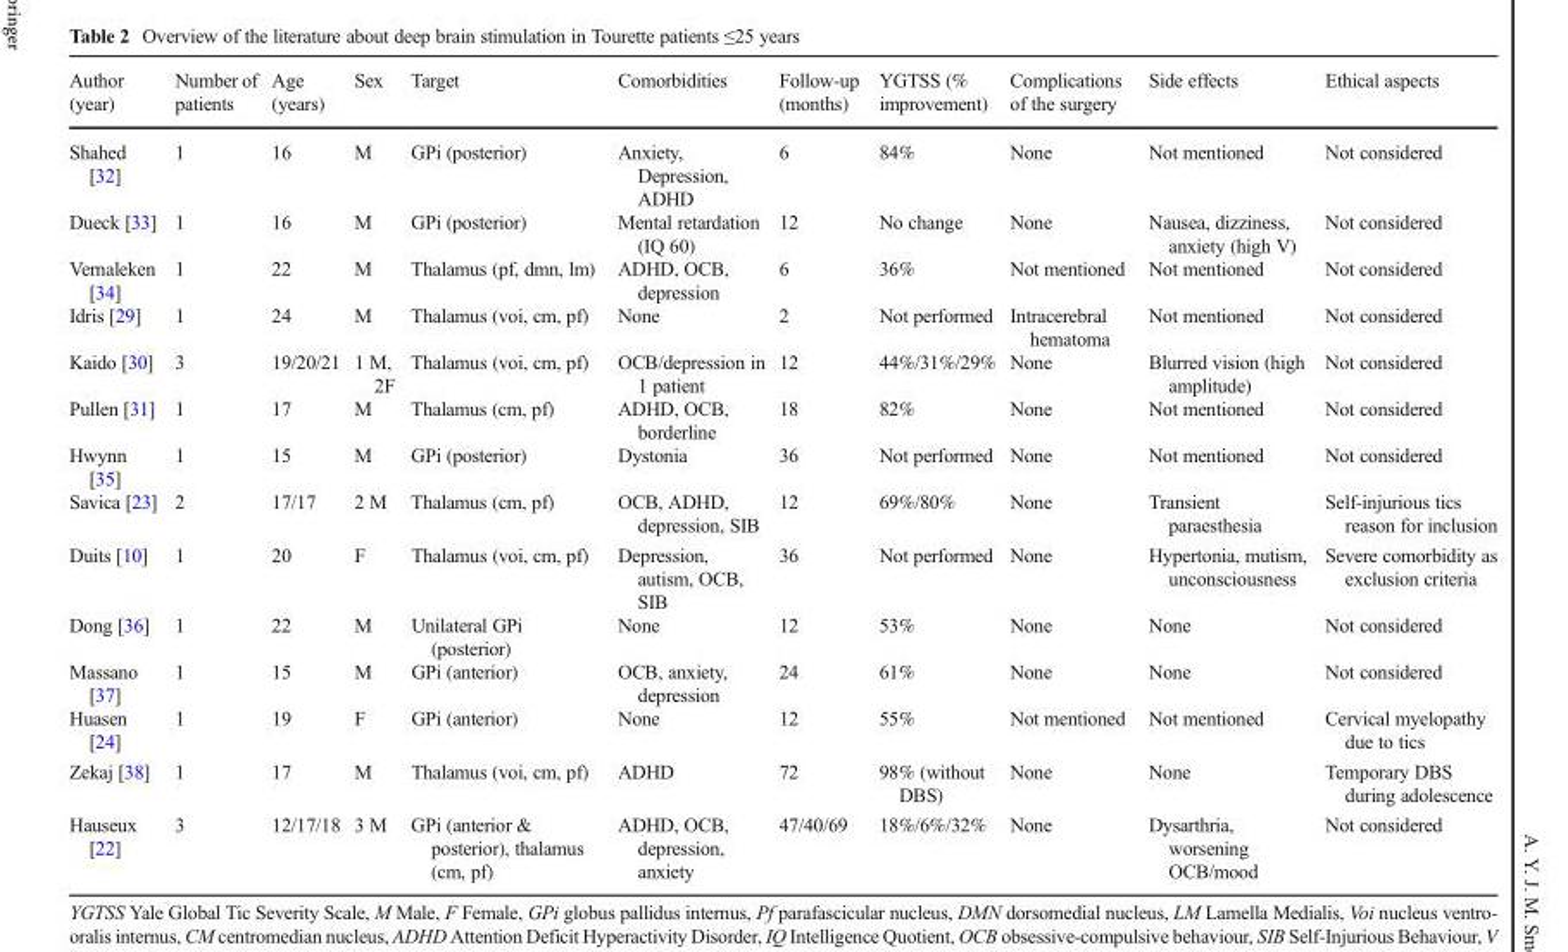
<table><thead><tr><td>Author (year)</td><td>Number of patients</td><td>Age (years)</td><td>Sex</td><td>Target</td><td>Comorbidities</td><td>Follow-up (months)</td><td>YGTSS (% improvement)</td><td>Complications of the surgery</td><td>Side effects</td><td>Ethical aspects</td></tr></thead><tbody><tr><td>Shahed [32]</td><td>1</td><td>16</td><td>M</td><td>GPi (posterior)</td><td>Anxiety, Depression, ADHD</td><td>6</td><td>84%</td><td>None</td><td>Not mentioned</td><td>Not considered</td></tr><tr><td>Dueck [33]</td><td>1</td><td>16</td><td>M</td><td>GPi (posterior)</td><td>Mental retardation (IQ 60)</td><td>12</td><td>No change</td><td>None</td><td>Nausea, dizziness, anxiety (high V)</td><td>Not considered</td></tr><tr><td>Vernaleken [34]</td><td>1</td><td>22</td><td>M</td><td>Thalamus (pf, dmn, lm)</td><td>ADHD, OCB, depression</td><td>6</td><td>36%</td><td>Not mentioned</td><td>Not mentioned</td><td>Not considered</td></tr><tr><td>Idris [29]</td><td>1</td><td>24</td><td>M</td><td>Thalamus (voi, cm, pf)</td><td>None</td><td>2</td><td>Not performed</td><td>Intracerebral hematoma</td><td>Not mentioned</td><td>Not considered</td></tr><tr><td>Kaido [30]</td><td>3</td><td>19/20/21</td><td>1 M, 2F</td><td>Thalamus (voi, cm, pf)</td><td>OCB/depression in 1 patient</td><td>12</td><td>44%/31%/29%</td><td>None</td><td>Blurred vision (high amplitude)</td><td>Not considered</td></tr><tr><td>Pullen [31]</td><td>1</td><td>17</td><td>M</td><td>Thalamus (cm, pf)</td><td>ADHD, OCB, borderline</td><td>18</td><td>82%</td><td>None</td><td>Not mentioned</td><td>Not considered</td></tr><tr><td>Hwynn [35]</td><td>1</td><td>15</td><td>M</td><td>GPi (posterior)</td><td>Dystonia</td><td>36</td><td>Not performed</td><td>None</td><td>Not mentioned</td><td>Not considered</td></tr><tr><td>Savica [23]</td><td>2</td><td>17/17</td><td>2 M</td><td>Thalamus (cm, pf)</td><td>OCB, ADHD, depression, SIB</td><td>12</td><td>69%/80%</td><td>None</td><td>Transient paraesthesia</td><td>Self-injurious tics reason for inclusion</td></tr><tr><td>Duits [10]</td><td>1</td><td>20</td><td>F</td><td>Thalamus (voi, cm, pf)</td><td>Depression, autism, OCB, SIB</td><td>36</td><td>Not performed</td><td>None</td><td>Hypertonia, mutism, unconsciousness</td><td>Severe comorbidity as exclusion criteria</td></tr><tr><td>Dong [36]</td><td>1</td><td>22</td><td>M</td><td>Unilateral GPi (posterior)</td><td>None</td><td>12</td><td>53%</td><td>None</td><td>None</td><td>Not considered</td></tr><tr><td>Massano [37]</td><td>1</td><td>15</td><td>M</td><td>GPi (anterior)</td><td>OCB, anxiety, depression</td><td>24</td><td>61%</td><td>None</td><td>None</td><td>Not considered</td></tr><tr><td>Huasen [24]</td><td>1</td><td>19</td><td>F</td><td>GPi (anterior)</td><td>None</td><td>12</td><td>55%</td><td>Not mentioned</td><td>Not mentioned</td><td>Cervical myelopathy due to tics</td></tr><tr><td>Zekaj [38]</td><td>1</td><td>17</td><td>M</td><td>Thalamus (voi, cm, pf)</td><td>ADHD</td><td>72</td><td>98% (without DBS)</td><td>None</td><td>None</td><td>Temporary DBS during adolescence</td></tr><tr><td>Hauseux [22]</td><td>3</td><td>12/17/18</td><td>3 M</td><td>GPi (anterior &amp; posterior), thalamus (cm, pf)</td><td>ADHD, OCB, depression, anxiety</td><td>47/40/69</td><td>18%/6%/32%</td><td>None</td><td>Dysarthria, worsening OCB/mood</td><td>Not considered</td></tr></tbody></table>